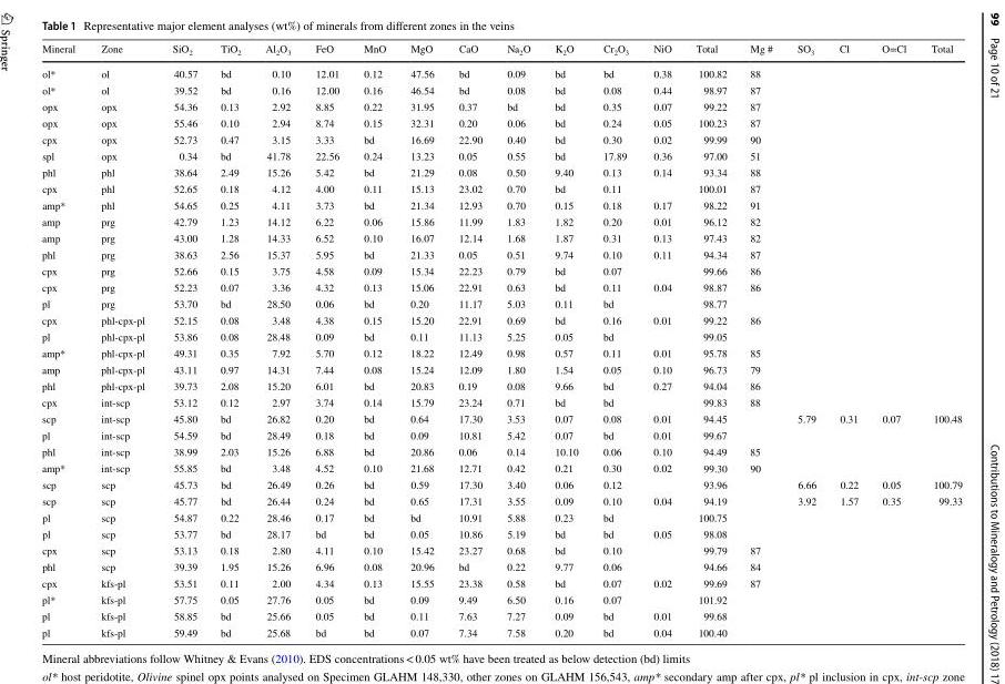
<table><thead><tr><td>Mineral</td><td>Zone</td><td>SiO<sub>2</sub></td><td>TiO<sub>2</sub></td><td>Al<sub>2</sub>O<sub>3</sub></td><td>FeO</td><td>MnO</td><td>MgO</td><td>CaO</td><td>Na<sub>2</sub>O</td><td>K<sub>2</sub>O</td><td>Cr<sub>2</sub>O<sub>3</sub></td><td>NiO</td><td>Total</td><td>Mg #</td><td>SO<sub>3</sub></td><td>Cl</td><td>O=Cl</td><td>Total</td></tr></thead><tbody><tr><td>ol*</td><td>ol</td><td>40.57</td><td>bd</td><td>0.10</td><td>12.01</td><td>0.12</td><td>47.56</td><td>bd</td><td>0.09</td><td>bd</td><td>bd</td><td>0.38</td><td>100.82</td><td>88</td><td></td><td></td><td></td><td></td></tr><tr><td>ol*</td><td>ol</td><td>39.52</td><td>bd</td><td>0.16</td><td>12.00</td><td>0.16</td><td>46.54</td><td>bd</td><td>0.08</td><td>bd</td><td>0.08</td><td>0.44</td><td>98.97</td><td>87</td><td></td><td></td><td></td><td></td></tr><tr><td>opx</td><td>opx</td><td>54.36</td><td>0.13</td><td>2.92</td><td>8.85</td><td>0.22</td><td>31.95</td><td>0.37</td><td>bd</td><td>bd</td><td>0.35</td><td>0.07</td><td>99.22</td><td>87</td><td></td><td></td><td></td><td></td></tr><tr><td>opx</td><td>opx</td><td>55.46</td><td>0.10</td><td>2.94</td><td>8.74</td><td>0.15</td><td>32.31</td><td>0.20</td><td>0.06</td><td>bd</td><td>0.24</td><td>0.05</td><td>100.23</td><td>87</td><td></td><td></td><td></td><td></td></tr><tr><td>cpx</td><td>opx</td><td>52.73</td><td>0.47</td><td>3.15</td><td>3.33</td><td>bd</td><td>16.69</td><td>22.90</td><td>0.40</td><td>bd</td><td>0.30</td><td>0.02</td><td>99.99</td><td>90</td><td></td><td></td><td></td><td></td></tr><tr><td>spl</td><td>opx</td><td>0.34</td><td>bd</td><td>41.78</td><td>22.56</td><td>0.24</td><td>13.23</td><td>0.05</td><td>0.55</td><td>bd</td><td>17.89</td><td>0.36</td><td>97.00</td><td>51</td><td></td><td></td><td></td><td></td></tr><tr><td>phl</td><td>phl</td><td>38.64</td><td>2.49</td><td>15.26</td><td>5.42</td><td>bd</td><td>21.29</td><td>0.08</td><td>0.50</td><td>9.40</td><td>0.13</td><td>0.14</td><td>93.34</td><td>88</td><td></td><td></td><td></td><td></td></tr><tr><td>cpx</td><td>phl</td><td>52.65</td><td>0.18</td><td>4.12</td><td>4.00</td><td>0.11</td><td>15.13</td><td>23.02</td><td>0.70</td><td>bd</td><td>0.11</td><td></td><td>100.01</td><td>87</td><td></td><td></td><td></td><td></td></tr><tr><td>amp*</td><td>phl</td><td>54.65</td><td>0.25</td><td>4.11</td><td>3.73</td><td>bd</td><td>21.34</td><td>12.93</td><td>0.70</td><td>0.15</td><td>0.18</td><td>0.17</td><td>98.22</td><td>91</td><td></td><td></td><td></td><td></td></tr><tr><td>amp</td><td>prg</td><td>42.79</td><td>1.23</td><td>14.12</td><td>6.22</td><td>0.06</td><td>15.86</td><td>11.99</td><td>1.83</td><td>1.82</td><td>0.20</td><td>0.01</td><td>96.12</td><td>82</td><td></td><td></td><td></td><td></td></tr><tr><td>amp</td><td>prg</td><td>43.00</td><td>1.28</td><td>14.33</td><td>6.52</td><td>0.10</td><td>16.07</td><td>12.14</td><td>1.68</td><td>1.87</td><td>0.31</td><td>0.13</td><td>97.43</td><td>82</td><td></td><td></td><td></td><td></td></tr><tr><td>phl</td><td>prg</td><td>38.63</td><td>2.56</td><td>15.37</td><td>5.95</td><td>bd</td><td>21.33</td><td>0.05</td><td>0.51</td><td>9.74</td><td>0.10</td><td>0.11</td><td>94.34</td><td>87</td><td></td><td></td><td></td><td></td></tr><tr><td>cpx</td><td>prg</td><td>52.66</td><td>0.15</td><td>3.75</td><td>4.58</td><td>0.09</td><td>15.34</td><td>22.23</td><td>0.79</td><td>bd</td><td>0.07</td><td></td><td>99.66</td><td>86</td><td></td><td></td><td></td><td></td></tr><tr><td>cpx</td><td>prg</td><td>52.23</td><td>0.07</td><td>3.36</td><td>4.32</td><td>0.13</td><td>15.06</td><td>22.91</td><td>0.63</td><td>bd</td><td>0.11</td><td>0.04</td><td>98.87</td><td>86</td><td></td><td></td><td></td><td></td></tr><tr><td>pl</td><td>prg</td><td>53.70</td><td>bd</td><td>28.50</td><td>0.06</td><td>bd</td><td>0.20</td><td>11.17</td><td>5.03</td><td>0.11</td><td>bd</td><td></td><td>98.77</td><td></td><td></td><td></td><td></td><td></td></tr><tr><td>cpx</td><td>phl-cpx-pl</td><td>52.15</td><td>0.08</td><td>3.48</td><td>4.38</td><td>0.15</td><td>15.20</td><td>22.91</td><td>0.69</td><td>bd</td><td>0.16</td><td>0.01</td><td>99.22</td><td>86</td><td></td><td></td><td></td><td></td></tr><tr><td>pl</td><td>phl-cpx-pl</td><td>53.86</td><td>0.08</td><td>28.48</td><td>0.09</td><td>bd</td><td>0.11</td><td>11.13</td><td>5.25</td><td>0.05</td><td>bd</td><td></td><td>99.05</td><td></td><td></td><td></td><td></td><td></td></tr><tr><td>amp*</td><td>phl-cpx-pl</td><td>49.31</td><td>0.35</td><td>7.92</td><td>5.70</td><td>0.12</td><td>18.22</td><td>12.49</td><td>0.98</td><td>0.57</td><td>0.11</td><td>0.01</td><td>95.78</td><td>85</td><td></td><td></td><td></td><td></td></tr><tr><td>amp</td><td>phl-cpx-pl</td><td>43.11</td><td>0.97</td><td>14.31</td><td>7.44</td><td>0.08</td><td>15.24</td><td>12.09</td><td>1.80</td><td>1.54</td><td>0.05</td><td>0.10</td><td>96.73</td><td>79</td><td></td><td></td><td></td><td></td></tr><tr><td>phl</td><td>phl-cpx-pl</td><td>39.73</td><td>2.08</td><td>15.20</td><td>6.01</td><td>bd</td><td>20.83</td><td>0.19</td><td>0.08</td><td>9.66</td><td>bd</td><td>0.27</td><td>94.04</td><td>86</td><td></td><td></td><td></td><td></td></tr><tr><td>cpx</td><td>int-scp</td><td>53.12</td><td>0.12</td><td>2.97</td><td>3.74</td><td>0.14</td><td>15.79</td><td>23.24</td><td>0.71</td><td>bd</td><td>bd</td><td></td><td>99.83</td><td>88</td><td></td><td></td><td></td><td></td></tr><tr><td>scp</td><td>int-scp</td><td>45.80</td><td>bd</td><td>26.82</td><td>0.20</td><td>bd</td><td>0.64</td><td>17.30</td><td>3.53</td><td>0.07</td><td>0.08</td><td>0.01</td><td>94.45</td><td></td><td>5.79</td><td>0.31</td><td>0.07</td><td>100.48</td></tr><tr><td>pl</td><td>int-scp</td><td>54.59</td><td>bd</td><td>28.49</td><td>0.18</td><td>bd</td><td>0.09</td><td>10.81</td><td>5.42</td><td>0.07</td><td>bd</td><td>0.01</td><td>99.67</td><td></td><td></td><td></td><td></td><td></td></tr><tr><td>phl</td><td>int-scp</td><td>38.99</td><td>2.03</td><td>15.26</td><td>6.88</td><td>bd</td><td>20.86</td><td>0.06</td><td>0.14</td><td>10.10</td><td>0.06</td><td>0.10</td><td>94.49</td><td>85</td><td></td><td></td><td></td><td></td></tr><tr><td>amp*</td><td>int-scp</td><td>55.85</td><td>bd</td><td>3.48</td><td>4.52</td><td>0.10</td><td>21.68</td><td>12.71</td><td>0.42</td><td>0.21</td><td>0.30</td><td>0.02</td><td>99.30</td><td>90</td><td></td><td></td><td></td><td></td></tr><tr><td>scp</td><td>scp</td><td>45.73</td><td>bd</td><td>26.49</td><td>0.26</td><td>bd</td><td>0.59</td><td>17.30</td><td>3.40</td><td>0.06</td><td>0.12</td><td></td><td>93.96</td><td></td><td>6.66</td><td>0.22</td><td>0.05</td><td>100.79</td></tr><tr><td>scp</td><td>scp</td><td>45.77</td><td>bd</td><td>26.44</td><td>0.24</td><td>bd</td><td>0.65</td><td>17.31</td><td>3.55</td><td>0.09</td><td>0.10</td><td>0.04</td><td>94.19</td><td></td><td>3.92</td><td>1.57</td><td>0.35</td><td>99.33</td></tr><tr><td>pl</td><td>scp</td><td>54.87</td><td>0.22</td><td>28.46</td><td>0.17</td><td>bd</td><td>bd</td><td>10.91</td><td>5.88</td><td>0.23</td><td>bd</td><td></td><td>100.75</td><td></td><td></td><td></td><td></td><td></td></tr><tr><td>pl</td><td>scp</td><td>53.77</td><td>bd</td><td>28.17</td><td>bd</td><td>bd</td><td>0.05</td><td>10.86</td><td>5.19</td><td>bd</td><td>bd</td><td>0.05</td><td>98.08</td><td></td><td></td><td></td><td></td><td></td></tr><tr><td>cpx</td><td>scp</td><td>53.13</td><td>0.18</td><td>2.80</td><td>4.11</td><td>0.10</td><td>15.42</td><td>23.27</td><td>0.68</td><td>bd</td><td>0.10</td><td></td><td>99.79</td><td>87</td><td></td><td></td><td></td><td></td></tr><tr><td>phl</td><td>scp</td><td>39.39</td><td>1.95</td><td>15.26</td><td>6.96</td><td>0.08</td><td>20.96</td><td>bd</td><td>0.22</td><td>9.77</td><td>0.06</td><td></td><td>94.66</td><td>84</td><td></td><td></td><td></td><td></td></tr><tr><td>cpx</td><td>kfs-pl</td><td>53.51</td><td>0.11</td><td>2.00</td><td>4.34</td><td>0.13</td><td>15.55</td><td>23.38</td><td>0.58</td><td>bd</td><td>0.07</td><td>0.02</td><td>99.69</td><td>87</td><td></td><td></td><td></td><td></td></tr><tr><td>pl*</td><td>kfs-pl</td><td>57.75</td><td>0.05</td><td>27.76</td><td>0.05</td><td>bd</td><td>0.09</td><td>9.49</td><td>6.50</td><td>0.16</td><td>0.07</td><td></td><td>101.92</td><td></td><td></td><td></td><td></td><td></td></tr><tr><td>pl</td><td>kfs-pl</td><td>58.85</td><td>bd</td><td>25.66</td><td>0.05</td><td>bd</td><td>0.11</td><td>7.63</td><td>7.27</td><td>0.09</td><td>bd</td><td>0.01</td><td>99.68</td><td></td><td></td><td></td><td></td><td></td></tr><tr><td>pl</td><td>kfs-pl</td><td>59.49</td><td>bd</td><td>25.68</td><td>bd</td><td>bd</td><td>0.07</td><td>7.34</td><td>7.58</td><td>0.20</td><td>bd</td><td>0.04</td><td>100.40</td><td></td><td></td><td></td><td></td><td></td></tr></tbody></table>